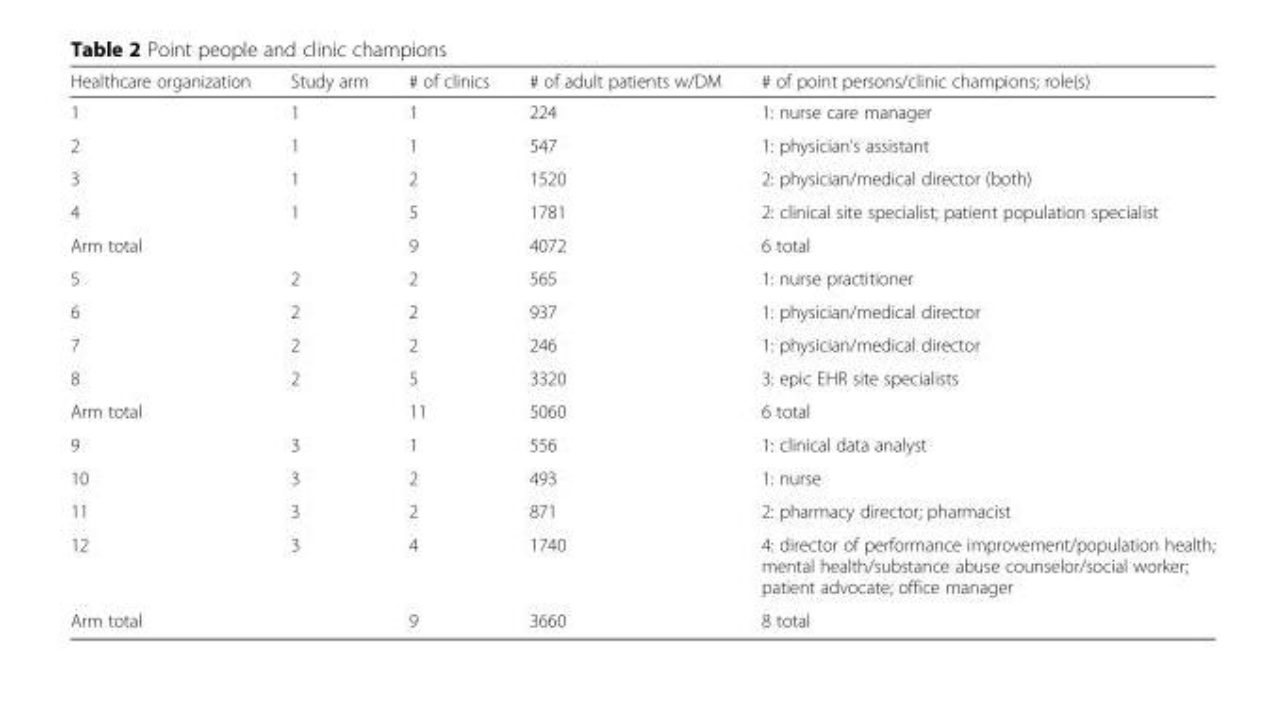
<table><thead><tr><td>Healthcare organization</td><td>Study arm</td><td># of clinics</td><td># of adult patients w/DM</td><td># of point persons/clinic champions; role(s)</td></tr></thead><tbody><tr><td>1</td><td>1</td><td>1</td><td>224</td><td>1: nurse care manager</td></tr><tr><td>2</td><td>1</td><td>1</td><td>547</td><td>1: physician’s assistant</td></tr><tr><td>3</td><td>1</td><td>2</td><td>1520</td><td>2: physician/medical director (both)</td></tr><tr><td>4</td><td>1</td><td>5</td><td>1781</td><td>2: clinical site specialist; patient population specialist</td></tr><tr><td>Arm total</td><td></td><td>9</td><td>4072</td><td>6 total</td></tr><tr><td>5</td><td>2</td><td>2</td><td>565</td><td>1: nurse practitioner</td></tr><tr><td>6</td><td>2</td><td>2</td><td>937</td><td>1: physician/medical director</td></tr><tr><td>7</td><td>2</td><td>2</td><td>246</td><td>1: physician/medical director</td></tr><tr><td>8</td><td>2</td><td>5</td><td>3320</td><td>3: epic EHR site specialists</td></tr><tr><td>Arm total</td><td></td><td>11</td><td>5060</td><td>6 total</td></tr><tr><td>9</td><td>3</td><td>1</td><td>556</td><td>1: clinical data analyst</td></tr><tr><td>10</td><td>3</td><td>2</td><td>493</td><td>1: nurse</td></tr><tr><td>11</td><td>3</td><td>2</td><td>871</td><td>2: pharmacy director; pharmacist</td></tr><tr><td>12</td><td>3</td><td>4</td><td>1740</td><td>4: director of performance improvement/population health; mental health/substance abuse counselor/social worker; patient advocate; office manager</td></tr><tr><td>Arm total</td><td></td><td>9</td><td>3660</td><td>8 total</td></tr></tbody></table>